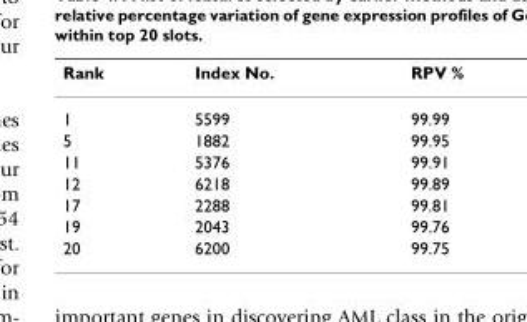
<table><thead><tr><td>Rank</td><td>Index No.</td><td>RPV %</td></tr></thead><tbody><tr><td>1</td><td>5599</td><td>99.99</td></tr><tr><td>5</td><td>1882</td><td>99.95</td></tr><tr><td>11</td><td>5376</td><td>99.91</td></tr><tr><td>12</td><td>6218</td><td>99.89</td></tr><tr><td>17</td><td>2288</td><td>99.81</td></tr><tr><td>19</td><td>2043</td><td>99.76</td></tr><tr><td>20</td><td>6200</td><td>99.75</td></tr></tbody></table>